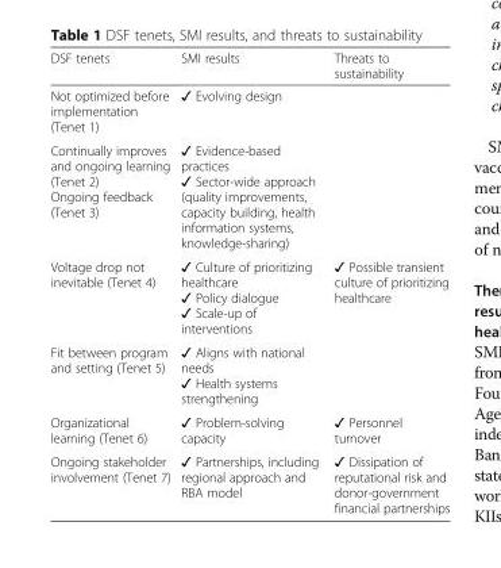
<table><thead><tr><td>DSF tenets</td><td>SMI results</td><td>Threats to sustainability</td></tr></thead><tbody><tr><td>Not optimized before implementation (Tenet 1)</td><td>✓ Evolving design</td><td></td></tr><tr><td>Continually improves and ongoing learning (Tenet 2) Ongoing feedback (Tenet 3)</td><td>✓ Evidence-based practices ✓ Sector-wide approach (quality improvements, capacity building, health information systems, knowledge-sharing)</td><td></td></tr><tr><td>Voltage drop not inevitable (Tenet 4)</td><td>✓ Culture of prioritizing healthcare ✓ Policy dialogue ✓ Scale-up of interventions</td><td>✓ Possible transient culture of prioritizing healthcare</td></tr><tr><td>Fit between program and setting (Tenet 5)</td><td>✓ Aligns with national needs ✓ Health systems strengthening</td><td></td></tr><tr><td>Organizational learning (Tenet 6)</td><td>✓ Problem-solving capacity</td><td>✓ Personnel turnover</td></tr><tr><td>Ongoing stakeholder involvement (Tenet 7)</td><td>✓ Partnerships, including regional approach and RBA model</td><td>✓ Dissipation of reputational risk and donor-government financial partnerships</td></tr></tbody></table>